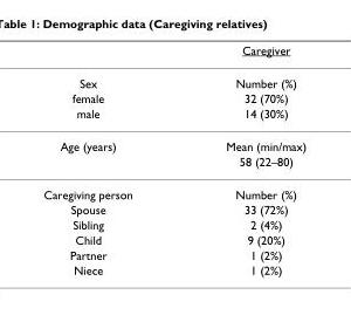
<table><thead><tr><td></td><td>Caregiver</td></tr></thead><tbody><tr><td>Sex</td><td>Number (%)</td></tr><tr><td>female</td><td>32 (70%)</td></tr><tr><td>male</td><td>14 (30%)</td></tr><tr><td rowspan="2">Age (years)</td><td>Mean (min/max)</td></tr><tr><td>58 (22–80)</td></tr><tr><td>Caregiving person</td><td>Number (%)</td></tr><tr><td>Spouse</td><td>33 (72%)</td></tr><tr><td>Sibling</td><td>2 (4%)</td></tr><tr><td>Child</td><td>9 (20%)</td></tr><tr><td>Partner</td><td>1 (2%)</td></tr><tr><td>Niece</td><td>1 (2%)</td></tr></tbody></table>